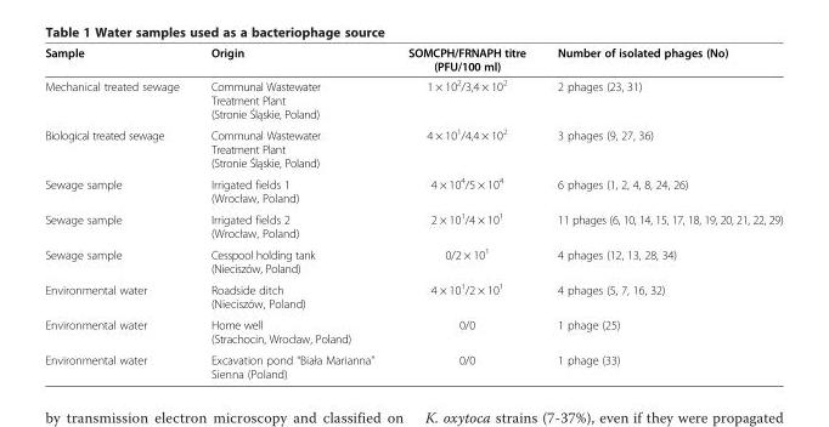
<table><thead><tr><td>Sample</td><td>Origin</td><td>SOMCPH/FRNAPH titre (PFU/100 ml)</td><td>Number of isolated phages (No)</td></tr></thead><tbody><tr><td>Mechanical treated sewage</td><td>Communal Wastewater Treatment Plant (Stronie Śląskie, Poland)</td><td>1 × 10<sup>2</sup>/3,4 × 10<sup>2</sup></td><td>2 phages (23, 31)</td></tr><tr><td>Biological treated sewage</td><td>Communal Wastewater Treatment Plant (Stronie Śląskie, Poland)</td><td>4 × 10<sup>1</sup>/4,4 × 10<sup>2</sup></td><td>3 phages (9, 27, 36)</td></tr><tr><td>Sewage sample</td><td>Irrigated fields 1 (Wrocław, Poland)</td><td>4 × 10<sup>4</sup>/5 × 10<sup>4</sup></td><td>6 phages (1, 2, 4, 8, 24, 26)</td></tr><tr><td>Sewage sample</td><td>Irrigated fields 2 (Wrocław, Poland)</td><td>2 × 10<sup>1</sup>/4 × 10<sup>1</sup></td><td>11 phages (6, 10, 14, 15, 17, 18, 19, 20, 21, 22, 29)</td></tr><tr><td>Sewage sample</td><td>Cesspool holding tank (Nieciszów, Poland)</td><td>0/2 × 10<sup>1</sup></td><td>4 phages (12, 13, 28, 34)</td></tr><tr><td>Environmental water</td><td>Roadside ditch (Nieciszów, Poland)</td><td>4 × 10<sup>1</sup>/2 × 10<sup>1</sup></td><td>4 phages (5, 7, 16, 32)</td></tr><tr><td>Environmental water</td><td>Home well (Strachocin, Wrocław, Poland)</td><td>0/0</td><td>1 phage (25)</td></tr><tr><td>Environmental water</td><td>Excavation pond “Biała Marianna” Sienna (Poland)</td><td>0/0</td><td>1 phage (33)</td></tr></tbody></table>